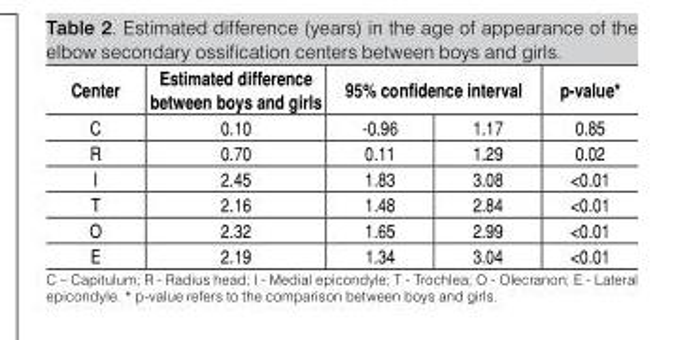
<table><thead><tr><td rowspan="2">Center C</td><td rowspan="2">Estimated difference between boys and girls 0.10</td><td colspan="2">95% confidence interval</td><td rowspan="2">p-value* 0.85</td></tr><tr><td>-0.96</td><td>1.17</td></tr></thead><tbody><tr><td>R</td><td>0.70</td><td>0.11</td><td>1.29</td><td>0.02</td></tr><tr><td>I</td><td>2.45</td><td>1.83</td><td>3.08</td><td>&lt;0.01</td></tr><tr><td>T</td><td>2.16</td><td>1.48</td><td>2.84</td><td>&lt;0.01</td></tr><tr><td>O</td><td>2.32</td><td>1.65</td><td>2.99</td><td>&lt;0.01</td></tr><tr><td>E</td><td>2.19</td><td>1.34</td><td>3.04</td><td>&lt;0.01</td></tr></tbody></table>